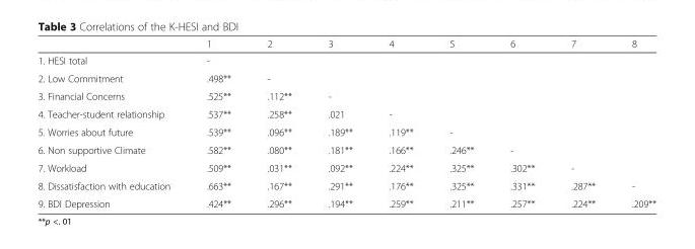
<table><thead><tr><td></td><td>1</td><td>2</td><td>3</td><td>4</td><td>5</td><td>6</td><td>7</td><td>8</td></tr></thead><tbody><tr><td>1. HESI total</td><td>-</td><td></td><td></td><td></td><td></td><td></td><td></td><td></td></tr><tr><td>2. Low Commitment</td><td>.498**</td><td>-</td><td></td><td></td><td></td><td></td><td></td><td></td></tr><tr><td>3. Financial Concerns</td><td>.525**</td><td>.112**</td><td>-</td><td></td><td></td><td></td><td></td><td></td></tr><tr><td>4. Teacher-student relationship</td><td>.537**</td><td>.258**</td><td>.021</td><td>-</td><td></td><td></td><td></td><td></td></tr><tr><td>5. Worries about future</td><td>.539**</td><td>.096**</td><td>.189**</td><td>.119**</td><td>-</td><td></td><td></td><td></td></tr><tr><td>6. Non supportive Climate</td><td>.582**</td><td>.080**</td><td>.181**</td><td>.166**</td><td>.246**</td><td>-</td><td></td><td></td></tr><tr><td>7. Workload</td><td>.509**</td><td>.031**</td><td>.092**</td><td>.224**</td><td>.325**</td><td>.302**</td><td>-</td><td></td></tr><tr><td>8. Dissatisfaction with education</td><td>.663**</td><td>.167**</td><td>.291**</td><td>.176**</td><td>.325**</td><td>.331**</td><td>.287**</td><td>-</td></tr><tr><td>9. BDI Depression</td><td>.424**</td><td>.296**</td><td>.194**</td><td>.259**</td><td>.211**</td><td>.257**</td><td>.224**</td><td>.209**</td></tr></tbody></table>